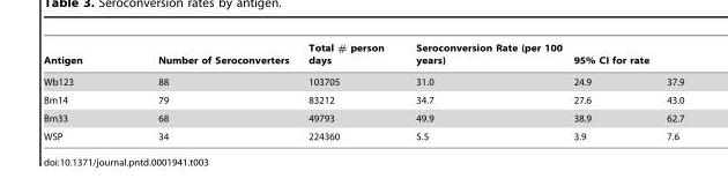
<table><thead><tr><td rowspan="2">Antigen Wb123</td><td rowspan="2">Number of Seroconverters 88</td><td rowspan="2">Total # person days 103705</td><td rowspan="2">Seroconversion Rate (per 100 years) 31.0</td><td colspan="2">95% CI for rate</td></tr><tr><td>24.9</td><td>37.9</td></tr></thead><tbody><tr><td>Bm14</td><td>79</td><td>83212</td><td>34.7</td><td>27.6</td><td>43.0</td></tr><tr><td>Bm33</td><td>68</td><td>49793</td><td>49.9</td><td>38.9</td><td>62.7</td></tr><tr><td>WSP</td><td>34</td><td>224360</td><td>5.5</td><td>3.9</td><td>7.6</td></tr></tbody></table>